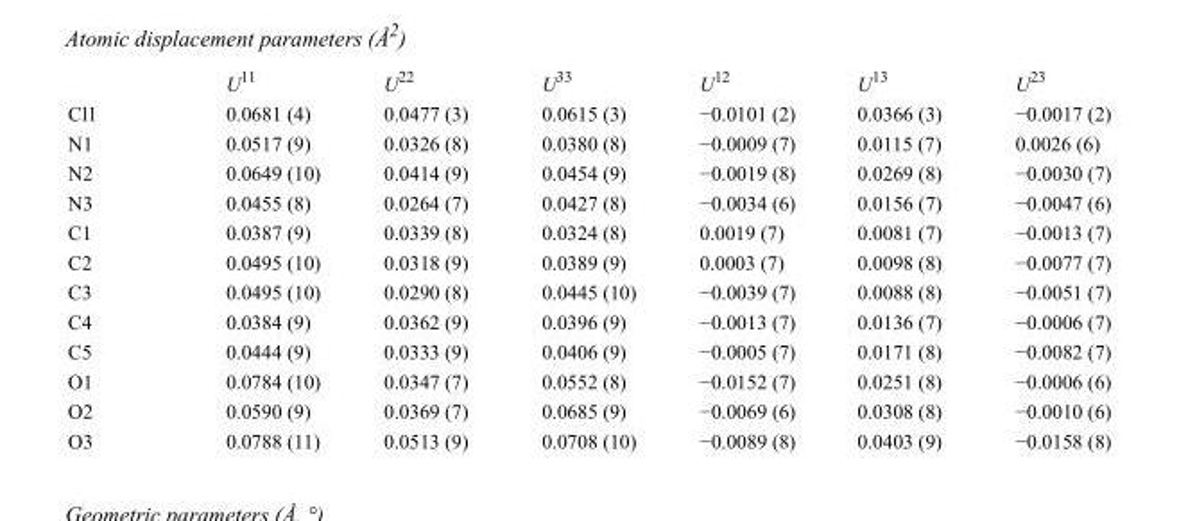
<table><thead><tr><td></td><td>U<sup>11</sup></td><td>U<sup>22</sup></td><td>U<sup>33</sup></td><td>U<sup>12</sup></td><td>U<sup>13</sup></td><td>U<sup>23</sup></td></tr></thead><tbody><tr><td>Cl1</td><td>0.0681 (4)</td><td>0.0477 (3)</td><td>0.0615 (3)</td><td>−0.0101 (2)</td><td>0.0366 (3)</td><td>−0.0017 (2)</td></tr><tr><td>N1</td><td>0.0517 (9)</td><td>0.0326 (8)</td><td>0.0380 (8)</td><td>−0.0009 (7)</td><td>0.0115 (7)</td><td>0.0026 (6)</td></tr><tr><td>N2</td><td>0.0649 (10)</td><td>0.0414 (9)</td><td>0.0454 (9)</td><td>−0.0019 (8)</td><td>0.0269 (8)</td><td>−0.0030 (7)</td></tr><tr><td>N3</td><td>0.0455 (8)</td><td>0.0264 (7)</td><td>0.0427 (8)</td><td>−0.0034 (6)</td><td>0.0156 (7)</td><td>−0.0047 (6)</td></tr><tr><td>C1</td><td>0.0387 (9)</td><td>0.0339 (8)</td><td>0.0324 (8)</td><td>0.0019 (7)</td><td>0.0081 (7)</td><td>−0.0013 (7)</td></tr><tr><td>C2</td><td>0.0495 (10)</td><td>0.0318 (9)</td><td>0.0389 (9)</td><td>0.0003 (7)</td><td>0.0098 (8)</td><td>−0.0077 (7)</td></tr><tr><td>C3</td><td>0.0495 (10)</td><td>0.0290 (8)</td><td>0.0445 (10)</td><td>−0.0039 (7)</td><td>0.0088 (8)</td><td>−0.0051 (7)</td></tr><tr><td>C4</td><td>0.0384 (9)</td><td>0.0362 (9)</td><td>0.0396 (9)</td><td>−0.0013 (7)</td><td>0.0136 (7)</td><td>−0.0006 (7)</td></tr><tr><td>C5</td><td>0.0444 (9)</td><td>0.0333 (9)</td><td>0.0406 (9)</td><td>−0.0005 (7)</td><td>0.0171 (8)</td><td>−0.0082 (7)</td></tr><tr><td>O1</td><td>0.0784 (10)</td><td>0.0347 (7)</td><td>0.0552 (8)</td><td>−0.0152 (7)</td><td>0.0251 (8)</td><td>−0.0006 (6)</td></tr><tr><td>O2</td><td>0.0590 (9)</td><td>0.0369 (7)</td><td>0.0685 (9)</td><td>−0.0069 (6)</td><td>0.0308 (8)</td><td>−0.0010 (6)</td></tr><tr><td>O3</td><td>0.0788 (11)</td><td>0.0513 (9)</td><td>0.0708 (10)</td><td>−0.0089 (8)</td><td>0.0403 (9)</td><td>−0.0158 (8)</td></tr></tbody></table>